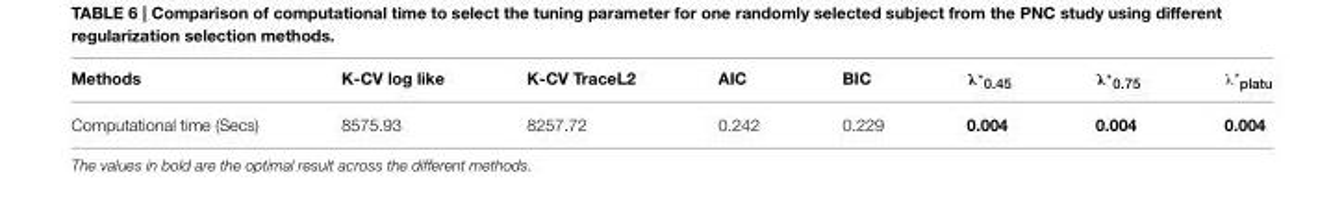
<table><thead><tr><td>Methods</td><td>K-CV log like</td><td>K-CV TraceL2</td><td>AIC</td><td>BIC</td><td>λ*<sub>0.45</sub></td><td>λ*<sub>0.75</sub></td><td>λ*<sub>platu</sub></td></tr></thead><tbody><tr><td>Computational time (Secs)</td><td>8575.93</td><td>8257.72</td><td>0.242</td><td>0.229</td><td>0.004</td><td>0.004</td><td>0.004</td></tr></tbody></table>